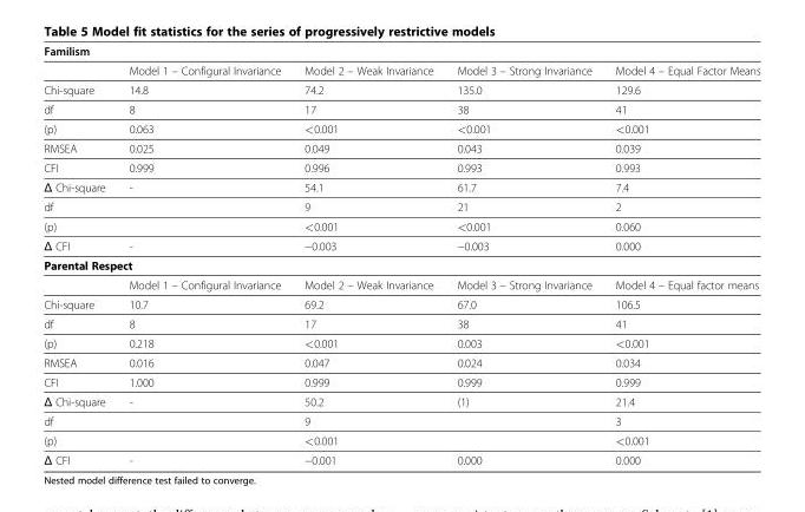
<table><thead><tr><td colspan="5">Familism</td></tr><tr><td></td><td>Model 1 – Configural Invariance</td><td>Model 2 – Weak Invariance</td><td>Model 3 – Strong Invariance</td><td>Model 4 – Equal Factor Means</td></tr></thead><tbody><tr><td>Chi-square</td><td>14.8</td><td>74.2</td><td>135.0</td><td>129.6</td></tr><tr><td>df</td><td>8</td><td>17</td><td>38</td><td>41</td></tr><tr><td>(p)</td><td>0.063</td><td>&lt;0.001</td><td>&lt;0.001</td><td>&lt;0.001</td></tr><tr><td>RMSEA</td><td>0.025</td><td>0.049</td><td>0.043</td><td>0.039</td></tr><tr><td>CFI</td><td>0.999</td><td>0.996</td><td>0.993</td><td>0.993</td></tr><tr><td>Δ Chi-square</td><td>-</td><td>54.1</td><td>61.7</td><td>7.4</td></tr><tr><td>df</td><td></td><td>9</td><td>21</td><td>2</td></tr><tr><td>(p)</td><td></td><td>&lt;0.001</td><td>&lt;0.001</td><td>0.060</td></tr><tr><td>Δ CFI</td><td>-</td><td>−0.003</td><td>−0.003</td><td>0.000</td></tr><tr><td colspan="5">Parental Respect</td></tr><tr><td></td><td>Model 1 – Configural Invariance</td><td>Model 2 – Weak Invariance</td><td>Model 3 – Strong Invariance</td><td>Model 4 – Equal factor means</td></tr><tr><td>Chi-square</td><td>10.7</td><td>69.2</td><td>67.0</td><td>106.5</td></tr><tr><td>df</td><td>8</td><td>17</td><td>38</td><td>41</td></tr><tr><td>(p)</td><td>0.218</td><td>&lt;0.001</td><td>0.003</td><td>&lt;0.001</td></tr><tr><td>RMSEA</td><td>0.016</td><td>0.047</td><td>0.024</td><td>0.034</td></tr><tr><td>CFI</td><td>1.000</td><td>0.999</td><td>0.999</td><td>0.999</td></tr><tr><td>Δ Chi-square</td><td>-</td><td>50.2</td><td>(1)</td><td>21.4</td></tr><tr><td>df</td><td></td><td>9</td><td></td><td>3</td></tr><tr><td>(p)</td><td></td><td>&lt;0.001</td><td></td><td>&lt;0.001</td></tr><tr><td>Δ CFI</td><td>-</td><td>−0.001</td><td>0.000</td><td>0.000</td></tr></tbody></table>